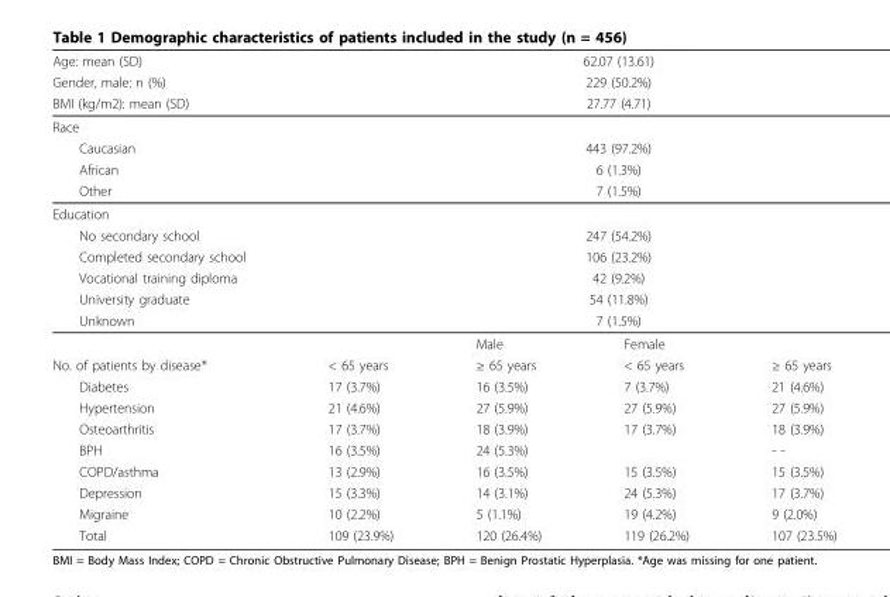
<table><thead><tr><td rowspan="4">Age: mean (SD) Gender, male: n (%) BMI (kg/m2): mean (SD) Race</td><td rowspan="3" colspan="4">62.07 (13.61) 229 (50.2%) 27.77 (4.71)</td></tr><tr></tr><tr></tr><tr><td></td><td></td><td></td><td></td></tr></thead><tbody><tr><td>Caucasian</td><td colspan="4">443 (97.2%)</td></tr><tr><td>African</td><td colspan="4">6 (1.3%)</td></tr><tr><td>Other</td><td colspan="4">7 (1.5%)</td></tr><tr><td colspan="5">Education</td></tr><tr><td>No secondary school</td><td colspan="4">247 (54.2%)</td></tr><tr><td>Completed secondary school</td><td colspan="4">106 (23.2%)</td></tr><tr><td>Vocational training diploma</td><td colspan="4">42 (9.2%)</td></tr><tr><td>University graduate</td><td colspan="4">54 (11.8%)</td></tr><tr><td rowspan="2">Unknown</td><td colspan="4">7 (1.5%)</td></tr><tr><td></td><td>Male</td><td>Female</td><td></td></tr><tr><td>No. of patients by disease*</td><td>&lt; 65 years</td><td>≥ 65 years</td><td>&lt; 65 years</td><td>≥ 65 years</td></tr><tr><td>Diabetes</td><td>17 (3.7%)</td><td>16 (3.5%)</td><td>7 (3.7%)</td><td>21 (4.6%)</td></tr><tr><td>Hypertension</td><td>21 (4.6%)</td><td>27 (5.9%)</td><td>27 (5.9%)</td><td>27 (5.9%)</td></tr><tr><td>Osteoarthritis</td><td>17 (3.7%)</td><td>18 (3.9%)</td><td>17 (3.7%)</td><td>18 (3.9%)</td></tr><tr><td>BPH</td><td>16 (3.5%)</td><td>24 (5.3%)</td><td></td><td>- -</td></tr><tr><td>COPD/asthma</td><td>13 (2.9%)</td><td>16 (3.5%)</td><td>15 (3.5%)</td><td>15 (3.5%)</td></tr><tr><td>Depression</td><td>15 (3.3%)</td><td>14 (3.1%)</td><td>24 (5.3%)</td><td>17 (3.7%)</td></tr><tr><td>Migraine</td><td>10 (2.2%)</td><td>5 (1.1%)</td><td>19 (4.2%)</td><td>9 (2.0%)</td></tr><tr><td>Total</td><td>109 (23.9%)</td><td>120 (26.4%)</td><td>119 (26.2%)</td><td>107 (23.5%)</td></tr></tbody></table>